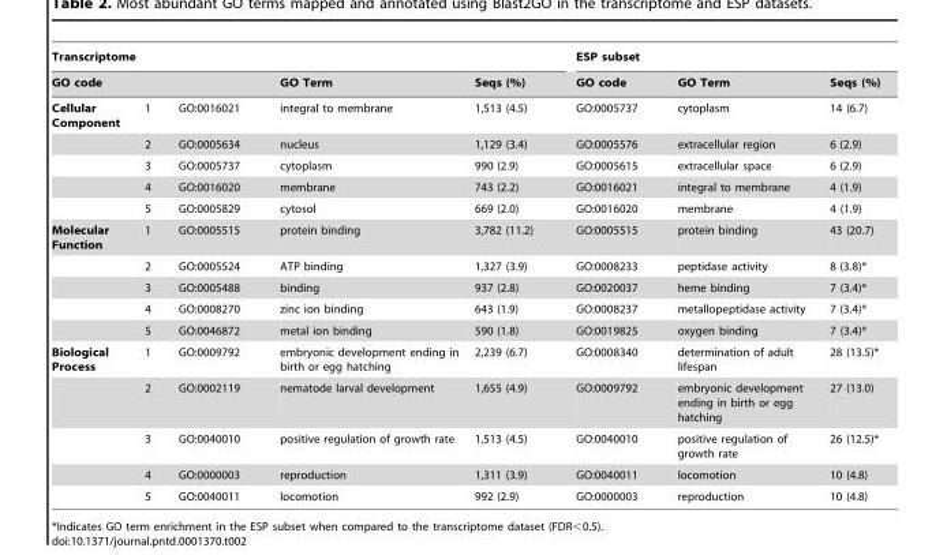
<table><thead><tr><td colspan="5">Transcriptome</td><td colspan="3">ESP subset</td></tr><tr><td colspan="3">GO code</td><td rowspan="2">GO Term integral to membrane</td><td rowspan="2">Seqs (%) 1,513 (4.5)</td><td rowspan="2">GO code GO:0005737</td><td rowspan="2">GO Term cytoplasm</td><td rowspan="2">Seqs (%) 14 (6.7)</td></tr><tr><td>Cellular Component</td><td>1</td><td>GO:0016021</td></tr></thead><tbody><tr><td></td><td>2</td><td>GO:0005634</td><td>nucleus</td><td>1,129 (3.4)</td><td>GO:0005576</td><td>extracellular region</td><td>6 (2.9)</td></tr><tr><td></td><td>3</td><td>GO:0005737</td><td>cytoplasm</td><td>990 (2.9)</td><td>GO:0005615</td><td>extracellular space</td><td>6 (2.9)</td></tr><tr><td></td><td>4</td><td>GO:0016020</td><td>membrane</td><td>743 (2.2)</td><td>GO:0016021</td><td>integral to membrane</td><td>4 (1.9)</td></tr><tr><td></td><td>5</td><td>GO:0005829</td><td>cytosol</td><td>669 (2.0)</td><td>GO:0016020</td><td>membrane</td><td>4 (1.9)</td></tr><tr><td rowspan="5">Molecular Function</td><td>1</td><td>GO:0005515</td><td>protein binding</td><td>3,782 (11.2)</td><td>GO:0005515</td><td>protein binding</td><td>43 (20.7)</td></tr><tr><td>2</td><td>GO:0005524</td><td>ATP binding</td><td>1,327 (3.9)</td><td>GO:0008233</td><td>peptidase activity</td><td>8 (3.8)*</td></tr><tr><td>3</td><td>GO:0005488</td><td>binding</td><td>937 (2.8)</td><td>GO:0020037</td><td>heme binding</td><td>7 (3.4)*</td></tr><tr><td>4</td><td>GO:0008270</td><td>zinc ion binding</td><td>643 (1.9)</td><td>GO:0008237</td><td>metallopeptidase activity</td><td>7 (3.4)*</td></tr><tr><td>5</td><td>GO:0046872</td><td>metal ion binding</td><td>590 (1.8)</td><td>GO:0019825</td><td>oxygen binding</td><td>7 (3.4)*</td></tr><tr><td rowspan="5">Biological Process</td><td>1</td><td>GO:0009792</td><td>embryonic development ending in birth or egg hatching</td><td>2,239 (6.7)</td><td>GO:0008340</td><td>determination of adult lifespan</td><td>28 (13.5)*</td></tr><tr><td>2</td><td>GO:0002119</td><td>nematode larval development</td><td>1,655 (4.9)</td><td>GO:0009792</td><td>embryonic development ending in birth or egg hatching</td><td>27 (13.0)</td></tr><tr><td>3</td><td>GO:0040010</td><td>positive regulation of growth rate</td><td>1,513 (4.5)</td><td>GO:0040010</td><td>positive regulation of growth rate</td><td>26 (12.5)*</td></tr><tr><td>4</td><td>GO:0000003</td><td>reproduction</td><td>1,311 (3.9)</td><td>GO:0040011</td><td>locomotion</td><td>10 (4.8)</td></tr><tr><td>5</td><td>GO:0040011</td><td>locomotion</td><td>992 (2.9)</td><td>GO:0000003</td><td>reproduction</td><td>10 (4.8)</td></tr></tbody></table>